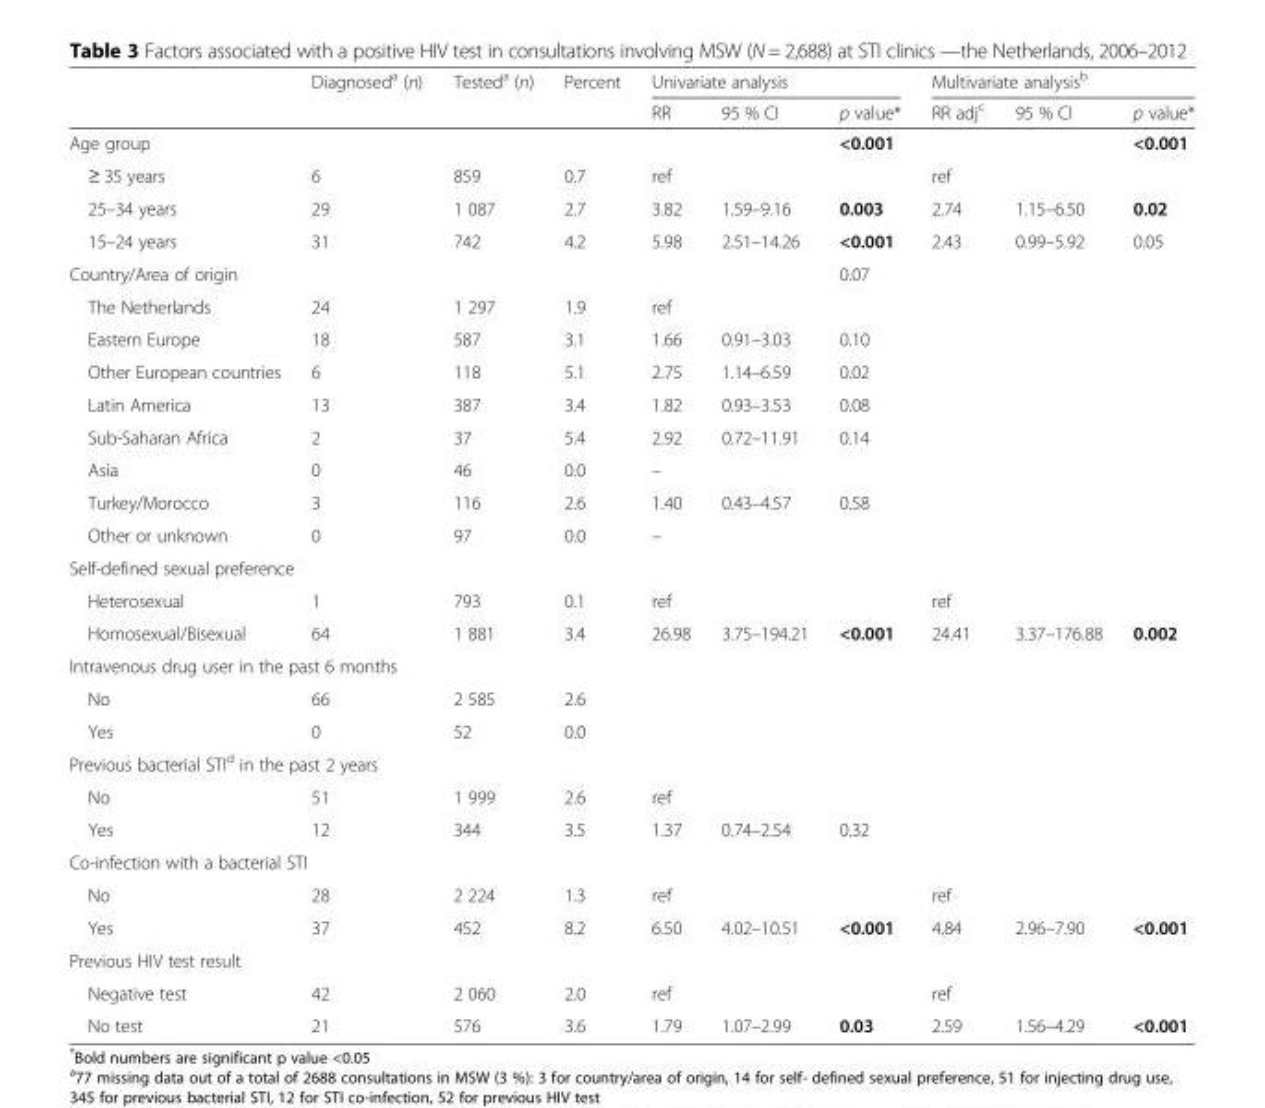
<table><thead><tr><td rowspan="2"></td><td rowspan="2">Diagnosed<sup>a</sup> (n)</td><td rowspan="2">Tested<sup>a</sup> (n)</td><td rowspan="2">Percent</td><td colspan="3">Univariate analysis</td><td colspan="3">Multivariate analysis<sup>b</sup></td></tr><tr><td>RR</td><td>95 % CI</td><td>p value*</td><td>RR adj<sup>c</sup></td><td>95 % CI</td><td>p value*</td></tr></thead><tbody><tr><td>Age group</td><td></td><td></td><td></td><td></td><td></td><td>&lt;0.001</td><td></td><td></td><td>&lt;0.001</td></tr><tr><td>≥ 35 years</td><td>6</td><td>859</td><td>0.7</td><td>ref</td><td></td><td></td><td>ref</td><td></td><td></td></tr><tr><td>25–34 years</td><td>29</td><td>1 087</td><td>2.7</td><td>3.82</td><td>1.59–9.16</td><td>0.003</td><td>2.74</td><td>1.15–6.50</td><td>0.02</td></tr><tr><td>15–24 years</td><td>31</td><td>742</td><td>4.2</td><td>5.98</td><td>2.51–14.26</td><td>&lt;0.001</td><td>2.43</td><td>0.99–5.92</td><td>0.05</td></tr><tr><td>Country/Area of origin</td><td></td><td></td><td></td><td></td><td></td><td>0.07</td><td></td><td></td><td></td></tr><tr><td>The Netherlands</td><td>24</td><td>1 297</td><td>1.9</td><td>ref</td><td></td><td></td><td></td><td></td><td></td></tr><tr><td>Eastern Europe</td><td>18</td><td>587</td><td>3.1</td><td>1.66</td><td>0.91–3.03</td><td>0.10</td><td></td><td></td><td></td></tr><tr><td>Other European countries</td><td>6</td><td>118</td><td>5.1</td><td>2.75</td><td>1.14–6.59</td><td>0.02</td><td></td><td></td><td></td></tr><tr><td>Latin America</td><td>13</td><td>387</td><td>3.4</td><td>1.82</td><td>0.93–3.53</td><td>0.08</td><td></td><td></td><td></td></tr><tr><td>Sub-Saharan Africa</td><td>2</td><td>37</td><td>5.4</td><td>2.92</td><td>0.72–11.91</td><td>0.14</td><td></td><td></td><td></td></tr><tr><td>Asia</td><td>0</td><td>46</td><td>0.0</td><td>–</td><td></td><td></td><td></td><td></td><td></td></tr><tr><td>Turkey/Morocco</td><td>3</td><td>116</td><td>2.6</td><td>1.40</td><td>0.43–4.57</td><td>0.58</td><td></td><td></td><td></td></tr><tr><td>Other or unknown</td><td>0</td><td>97</td><td>0.0</td><td>–</td><td></td><td></td><td></td><td></td><td></td></tr><tr><td colspan="10">Self-defined sexual preference</td></tr><tr><td>Heterosexual</td><td>1</td><td>793</td><td>0.1</td><td>ref</td><td></td><td></td><td>ref</td><td></td><td></td></tr><tr><td>Homosexual/Bisexual</td><td>64</td><td>1 881</td><td>3.4</td><td>26.98</td><td>3.75–194.21</td><td>&lt;0.001</td><td>24.41</td><td>3.37–176.88</td><td>0.002</td></tr><tr><td colspan="10">Intravenous drug user in the past 6 months</td></tr><tr><td>No</td><td>66</td><td>2 585</td><td>2.6</td><td></td><td></td><td></td><td></td><td></td><td></td></tr><tr><td>Yes</td><td>0</td><td>52</td><td>0.0</td><td></td><td></td><td></td><td></td><td></td><td></td></tr><tr><td colspan="10">Previous bacterial STI<sup>d</sup> in the past 2 years</td></tr><tr><td>No</td><td>51</td><td>1 999</td><td>2.6</td><td>ref</td><td></td><td></td><td></td><td></td><td></td></tr><tr><td>Yes</td><td>12</td><td>344</td><td>3.5</td><td>1.37</td><td>0.74–2.54</td><td>0.32</td><td></td><td></td><td></td></tr><tr><td colspan="10">Co-infection with a bacterial STI</td></tr><tr><td>No</td><td>28</td><td>2 224</td><td>1.3</td><td>ref</td><td></td><td></td><td>ref</td><td></td><td></td></tr><tr><td>Yes</td><td>37</td><td>452</td><td>8.2</td><td>6.50</td><td>4.02–10.51</td><td>&lt;0.001</td><td>4.84</td><td>2.96–7.90</td><td>&lt;0.001</td></tr><tr><td colspan="10">Previous HIV test result</td></tr><tr><td>Negative test</td><td>42</td><td>2 060</td><td>2.0</td><td>ref</td><td></td><td></td><td>ref</td><td></td><td></td></tr><tr><td>No test</td><td>21</td><td>576</td><td>3.6</td><td>1.79</td><td>1.07–2.99</td><td>0.03</td><td>2.59</td><td>1.56–4.29</td><td>&lt;0.001</td></tr></tbody></table>